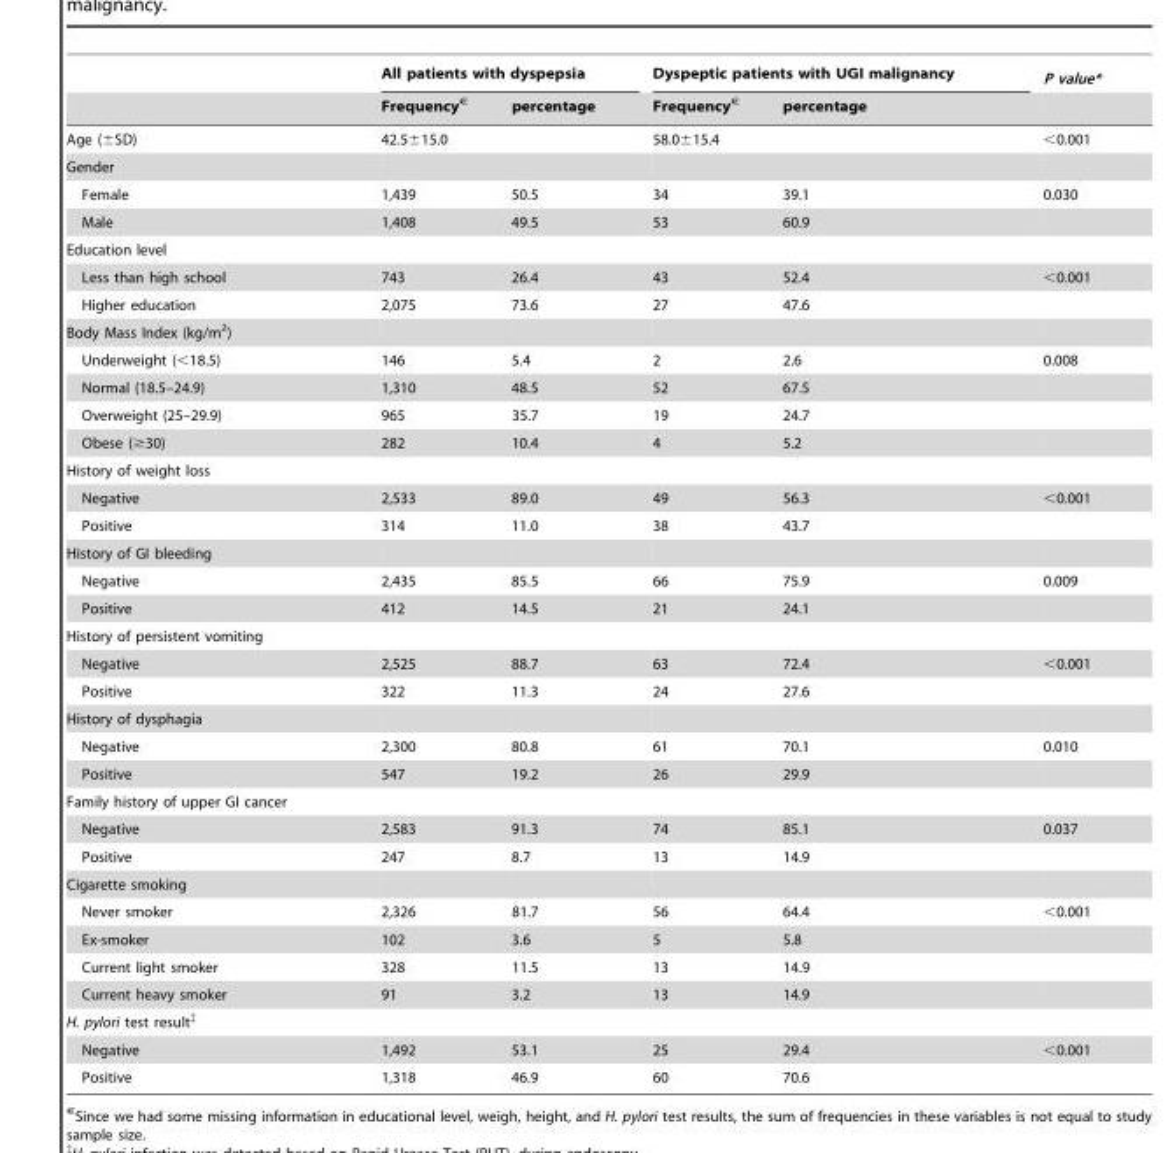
<table><thead><tr><td rowspan="2"></td><td colspan="2">All patients with dyspepsia</td><td colspan="2">Dyspeptic patients with UGI malignancy</td><td rowspan="2">P value*</td></tr><tr><td>Frequency€</td><td>percentage</td><td>Frequency€</td><td>percentage</td></tr></thead><tbody><tr><td>Age (±SD)</td><td colspan="2">42.5±15.0</td><td colspan="2">58.0±15.4</td><td>&lt;0.001</td></tr><tr><td colspan="6">Gender</td></tr><tr><td>Female</td><td>1,439</td><td>50.5</td><td>34</td><td>39.1</td><td>0.030</td></tr><tr><td>Male</td><td>1,408</td><td>49.5</td><td>53</td><td>60.9</td><td></td></tr><tr><td colspan="6">Education level</td></tr><tr><td>Less than high school</td><td>743</td><td>26.4</td><td>43</td><td>52.4</td><td>&lt;0.001</td></tr><tr><td>Higher education</td><td>2,075</td><td>73.6</td><td>27</td><td>47.6</td><td></td></tr><tr><td colspan="6">Body Mass Index (kg/m<sup>2</sup>)</td></tr><tr><td>Underweight (&lt;18.5)</td><td>146</td><td>5.4</td><td>2</td><td>2.6</td><td>0.008</td></tr><tr><td>Normal (18.5–24.9)</td><td>1,310</td><td>48.5</td><td>52</td><td>67.5</td><td></td></tr><tr><td>Overweight (25–29.9)</td><td>965</td><td>35.7</td><td>19</td><td>24.7</td><td></td></tr><tr><td>Obese (≥30)</td><td>282</td><td>10.4</td><td>4</td><td>5.2</td><td></td></tr><tr><td colspan="6">History of weight loss</td></tr><tr><td>Negative</td><td>2,533</td><td>89.0</td><td>49</td><td>56.3</td><td>&lt;0.001</td></tr><tr><td>Positive</td><td>314</td><td>11.0</td><td>38</td><td>43.7</td><td></td></tr><tr><td colspan="6">History of GI bleeding</td></tr><tr><td>Negative</td><td>2,435</td><td>85.5</td><td>66</td><td>75.9</td><td>0.009</td></tr><tr><td>Positive</td><td>412</td><td>14.5</td><td>21</td><td>24.1</td><td></td></tr><tr><td colspan="6">History of persistent vomiting</td></tr><tr><td>Negative</td><td>2,525</td><td>88.7</td><td>63</td><td>72.4</td><td>&lt;0.001</td></tr><tr><td>Positive</td><td>322</td><td>11.3</td><td>24</td><td>27.6</td><td></td></tr><tr><td colspan="6">History of dysphagia</td></tr><tr><td>Negative</td><td>2,300</td><td>80.8</td><td>61</td><td>70.1</td><td>0.010</td></tr><tr><td>Positive</td><td>547</td><td>19.2</td><td>26</td><td>29.9</td><td></td></tr><tr><td colspan="6">Family history of upper GI cancer</td></tr><tr><td>Negative</td><td>2,583</td><td>91.3</td><td>74</td><td>85.1</td><td>0.037</td></tr><tr><td>Positive</td><td>247</td><td>8.7</td><td>13</td><td>14.9</td><td></td></tr><tr><td colspan="6">Cigarette smoking</td></tr><tr><td>Never smoker</td><td>2,326</td><td>81.7</td><td>56</td><td>64.4</td><td>&lt;0.001</td></tr><tr><td>Ex-smoker</td><td>102</td><td>3.6</td><td>5</td><td>5.8</td><td></td></tr><tr><td>Current light smoker</td><td>328</td><td>11.5</td><td>13</td><td>14.9</td><td></td></tr><tr><td>Current heavy smoker</td><td>91</td><td>3.2</td><td>13</td><td>14.9</td><td></td></tr><tr><td colspan="6">H. pylori test result‡</td></tr><tr><td>Negative</td><td>1,492</td><td>53.1</td><td>25</td><td>29.4</td><td>&lt;0.001</td></tr><tr><td>Positive</td><td>1,318</td><td>46.9</td><td>60</td><td>70.6</td><td></td></tr></tbody></table>